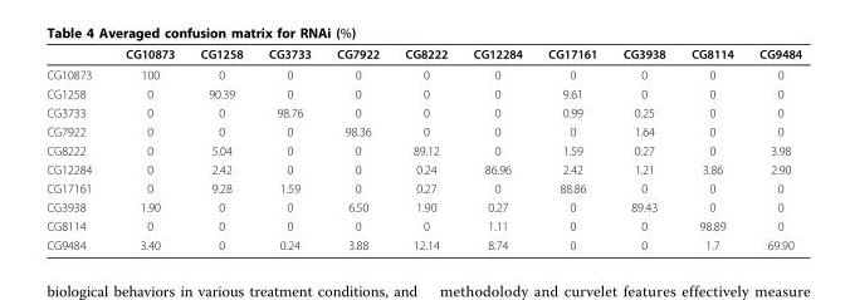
<table><thead><tr><td></td><td>CG10873</td><td>CG1258</td><td>CG3733</td><td>CG7922</td><td>CG8222</td><td>CG12284</td><td>CG17161</td><td>CG3938</td><td>CG8114</td><td>CG9484</td></tr></thead><tbody><tr><td>CG10873</td><td>100</td><td>0</td><td>0</td><td>0</td><td>0</td><td>0</td><td>0</td><td>0</td><td>0</td><td>0</td></tr><tr><td>CG1258</td><td>0</td><td>90.39</td><td>0</td><td>0</td><td>0</td><td>0</td><td>9.61</td><td>0</td><td>0</td><td>0</td></tr><tr><td>CG3733</td><td>0</td><td>0</td><td>98.76</td><td>0</td><td>0</td><td>0</td><td>0.99</td><td>0.25</td><td>0</td><td>0</td></tr><tr><td>CG7922</td><td>0</td><td>0</td><td>0</td><td>98.36</td><td>0</td><td>0</td><td>0</td><td>1.64</td><td>0</td><td>0</td></tr><tr><td>CG8222</td><td>0</td><td>5.04</td><td>0</td><td>0</td><td>89.12</td><td>0</td><td>1.59</td><td>0.27</td><td>0</td><td>3.98</td></tr><tr><td>CG12284</td><td>0</td><td>2.42</td><td>0</td><td>0</td><td>0.24</td><td>86.96</td><td>2.42</td><td>1.21</td><td>3.86</td><td>2.90</td></tr><tr><td>CG17161</td><td>0</td><td>9.28</td><td>1.59</td><td>0</td><td>0.27</td><td>0</td><td>88.86</td><td>0</td><td>0</td><td>0</td></tr><tr><td>CG3938</td><td>1.90</td><td>0</td><td>0</td><td>6.50</td><td>1.90</td><td>0.27</td><td>0</td><td>89.43</td><td>0</td><td>0</td></tr><tr><td>CG8114</td><td>0</td><td>0</td><td>0</td><td>0</td><td>0</td><td>1.11</td><td>0</td><td>0</td><td>98.89</td><td>0</td></tr><tr><td>CG9484</td><td>3.40</td><td>0</td><td>0.24</td><td>3.88</td><td>12.14</td><td>8.74</td><td>0</td><td>0</td><td>1.7</td><td>69.90</td></tr></tbody></table>